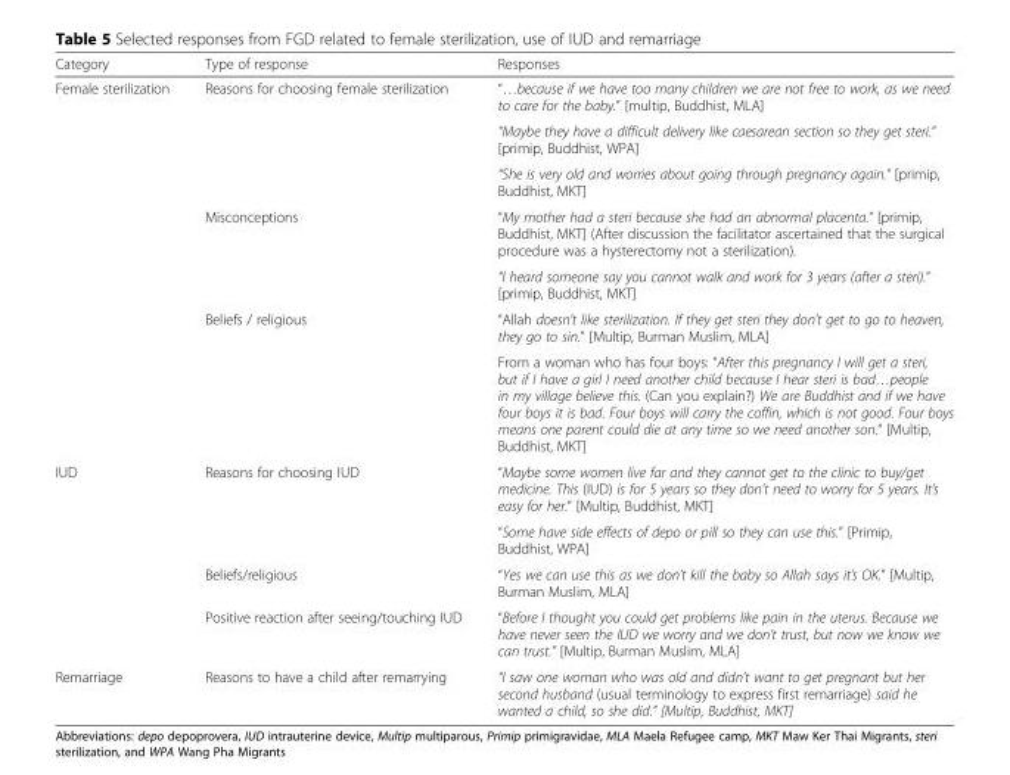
<table><thead><tr><td>Category</td><td>Type of response</td><td>Responses</td></tr></thead><tbody><tr><td rowspan="7">Female sterilization</td><td rowspan="3">Reasons for choosing female sterilization</td><td>“…because if we have too many children we are not free to work, as we need to care for the baby.” [multip, Buddhist, MLA]</td></tr><tr><td>“Maybe they have a difficult delivery like caesarean section so they get steri.” [primip, Buddhist, WPA]</td></tr><tr><td>“She is very old and worries about going through pregnancy again.” [primip, Buddhist, MKT]</td></tr><tr><td rowspan="2">Misconceptions</td><td>“My mother had a steri because she had an abnormal placenta.” [primip, Buddhist, MKT] (After discussion the facilitator ascertained that the surgical procedure was a hysterectomy not a sterilization).</td></tr><tr><td>“I heard someone say you cannot walk and work for 3 years (after a steri).” [primip, Buddhist, MKT]</td></tr><tr><td rowspan="2">Beliefs / religious</td><td>“Allah doesn’t like sterilization. If they get steri they don’t get to go to heaven, they go to sin.” [Multip, Burman Muslim, MLA]</td></tr><tr><td>From a woman who has four boys: “After this pregnancy I will get a steri, but if I have a girl I need another child because I hear steri is bad…people in my village believe this. (Can you explain?) We are Buddhist and if we have four boys it is bad. Four boys will carry the coffin, which is not good. Four boys means one parent could die at any time so we need another son.” [Multip, Buddhist, MKT]</td></tr><tr><td rowspan="4">IUD</td><td rowspan="2">Reasons for choosing IUD</td><td>“Maybe some women live far and they cannot get to the clinic to buy/get medicine. This (IUD) is for 5 years so they don’t need to worry for 5 years. It’s easy for her.” [Multip, Buddhist, MKT]</td></tr><tr><td>“Some have side effects of depo or pill so they can use this.” [Primip, Buddhist, WPA]</td></tr><tr><td>Beliefs/religious</td><td>“Yes we can use this as we don’t kill the baby so Allah says it’s OK.” [Multip, Burman Muslim, MLA]</td></tr><tr><td>Positive reaction after seeing/touching IUD</td><td>“Before I thought you could get problems like pain in the uterus. Because we have never seen the IUD we worry and we don’t trust, but now we know we can trust.” [Multip, Burman Muslim, MLA]</td></tr><tr><td>Remarriage</td><td>Reasons to have a child after remarrying</td><td>“I saw one woman who was old and didn’t want to get pregnant but her second husband (usual terminology to express first remarriage) said he wanted a child, so she did.” [Multip, Buddhist, MKT]</td></tr></tbody></table>